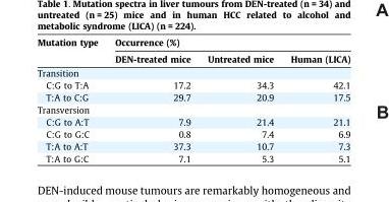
<table><thead><tr><td rowspan="2">Mutation type</td><td colspan="3">Occurrence (%)</td></tr><tr><td>DEN-treated mice</td><td>Untreated mice</td><td>Human (LICA)</td></tr></thead><tbody><tr><td colspan="4">Transition</td></tr><tr><td>C:G to T:A</td><td>17.2</td><td>34.3</td><td>42.1</td></tr><tr><td>T:A to C:G</td><td>29.7</td><td>20.9</td><td>17.5</td></tr><tr><td colspan="4">Transversion</td></tr><tr><td>C:G to A:T</td><td>7.9</td><td>21.4</td><td>21.1</td></tr><tr><td>C:G to G:C</td><td>0.8</td><td>7.4</td><td>6.9</td></tr><tr><td>T:A to A:T</td><td>37.3</td><td>10.7</td><td>7.3</td></tr><tr><td>T:A to G:C</td><td>7.1</td><td>5.3</td><td>5.1</td></tr></tbody></table>